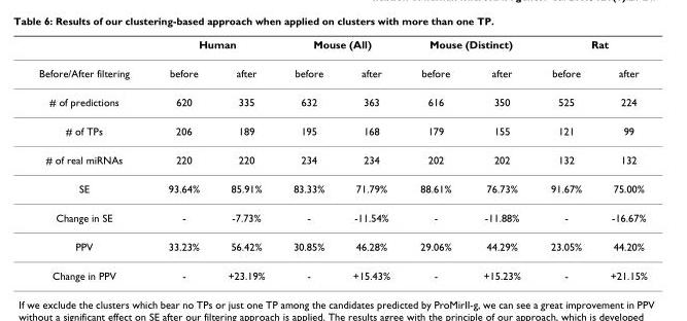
<table><thead><tr><td rowspan="2">Before/After filtering</td><td colspan="2">Human</td><td colspan="2">Mouse (All)</td><td colspan="2">Mouse (Distinct)</td><td colspan="2">Rat</td></tr><tr><td>before</td><td>after</td><td>before</td><td>after</td><td>before</td><td>after</td><td>before</td><td>after</td></tr></thead><tbody><tr><td># of predictions</td><td>620</td><td>335</td><td>632</td><td>363</td><td>616</td><td>350</td><td>525</td><td>224</td></tr><tr><td># of TPs</td><td>206</td><td>189</td><td>195</td><td>168</td><td>179</td><td>155</td><td>121</td><td>99</td></tr><tr><td># of real miRNAs</td><td>220</td><td>220</td><td>234</td><td>234</td><td>202</td><td>202</td><td>132</td><td>132</td></tr><tr><td>SE</td><td>93.64%</td><td>85.91%</td><td>83.33%</td><td>71.79%</td><td>88.61%</td><td>76.73%</td><td>91.67%</td><td>75.00%</td></tr><tr><td>Change in SE</td><td>-</td><td>-7.73%</td><td>-</td><td>-11.54%</td><td>-</td><td>-11.88%</td><td>-</td><td>-16.67%</td></tr><tr><td>PPV</td><td>33.23%</td><td>56.42%</td><td>30.85%</td><td>46.28%</td><td>29.06%</td><td>44.29%</td><td>23.05%</td><td>44.20%</td></tr><tr><td>Change in PPV</td><td>-</td><td>+23.19%</td><td>-</td><td>+15.43%</td><td>-</td><td>+15.23%</td><td>-</td><td>+21.15%</td></tr></tbody></table>